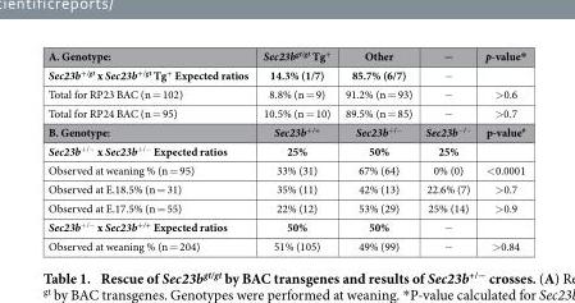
<table><thead><tr><td>A. Genotype:</td><td>Sec23b<sup>gt/gt</sup> Tg<sup>+</sup></td><td>Other</td><td>−</td><td>p-value*</td></tr></thead><tbody><tr><td>Sec23b<sup>+/gt</sup> x Sec23b<sup>+/gt</sup> Tg<sup>+</sup> Expected ratios</td><td>14.3% (1/7)</td><td>85.7% (6/7)</td><td>−</td><td></td></tr><tr><td>Total for RP23 BAC (n = 102)</td><td>8.8% (n = 9)</td><td>91.2% (n = 93)</td><td>−</td><td>&gt; 0.6</td></tr><tr><td>Total for RP24 BAC (n = 95)</td><td>10.5% (n = 10)</td><td>89.5% (n = 85)</td><td>−</td><td>&gt; 0.7</td></tr><tr><td>B. Genotype:</td><td>Sec23b<sup>+/+</sup></td><td>Sec23b<sup>+/−</sup></td><td>Sec23b<sup>−/−</sup></td><td>p-value<sup>#</sup></td></tr><tr><td>Sec23b<sup>+/−</sup> x Sec23b<sup>+/−</sup> Expected ratios</td><td>25%</td><td>50%</td><td>25%</td><td></td></tr><tr><td>Observed at weaning % (n = 95)</td><td>33% (31)</td><td>67% (64)</td><td>0% (0)</td><td>&lt; 0.0001</td></tr><tr><td>Observed at E.18.5% (n = 31)</td><td>35% (11)</td><td>42% (13)</td><td>22.6% (7)</td><td>&gt; 0.7</td></tr><tr><td>Observed at E.17.5% (n = 55)</td><td>22% (12)</td><td>53% (29)</td><td>25% (14)</td><td>&gt; 0.9</td></tr><tr><td>Sec23b<sup>+/−</sup> x Sec23b<sup>+/+</sup> Expected ratios</td><td>50%</td><td>50%</td><td>−</td><td></td></tr><tr><td>Observed at weaning % (n = 204)</td><td>51% (105)</td><td>49% (99)</td><td>−</td><td>&gt; 0.84</td></tr></tbody></table>